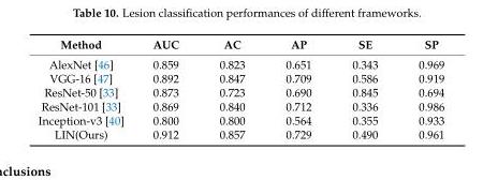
<table><thead><tr><td>Method</td><td>AUC</td><td>AC</td><td>AP</td><td>SE</td><td>SP</td></tr></thead><tbody><tr><td>AlexNet [46]</td><td>0.859</td><td>0.823</td><td>0.651</td><td>0.343</td><td>0.969</td></tr><tr><td>VGG-16 [47]</td><td>0.892</td><td>0.847</td><td>0.709</td><td>0.586</td><td>0.919</td></tr><tr><td>ResNet-50 [33]</td><td>0.873</td><td>0.723</td><td>0.690</td><td>0.845</td><td>0.694</td></tr><tr><td>ResNet-101 [33]</td><td>0.869</td><td>0.840</td><td>0.712</td><td>0.336</td><td>0.986</td></tr><tr><td>Inception-v3 [40]</td><td>0.800</td><td>0.800</td><td>0.564</td><td>0.355</td><td>0.933</td></tr><tr><td>LIN(Ours)</td><td>0.912</td><td>0.857</td><td>0.729</td><td>0.490</td><td>0.961</td></tr></tbody></table>